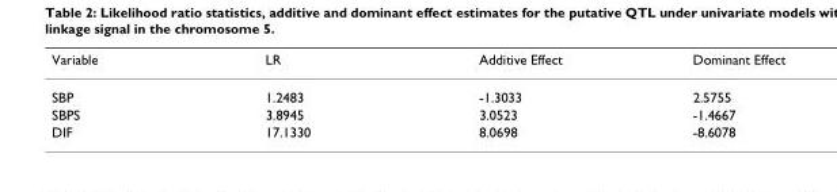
<table><thead><tr><td>Variable</td><td>LR</td><td>Additive Effect</td><td>Dominant Effect</td></tr></thead><tbody><tr><td>SBP</td><td>1.2483</td><td>-1.3033</td><td>2.5755</td></tr><tr><td>SBPS</td><td>3.8945</td><td>3.0523</td><td>-1.4667</td></tr><tr><td>DIF</td><td>17.1330</td><td>8.0698</td><td>-8.6078</td></tr></tbody></table>